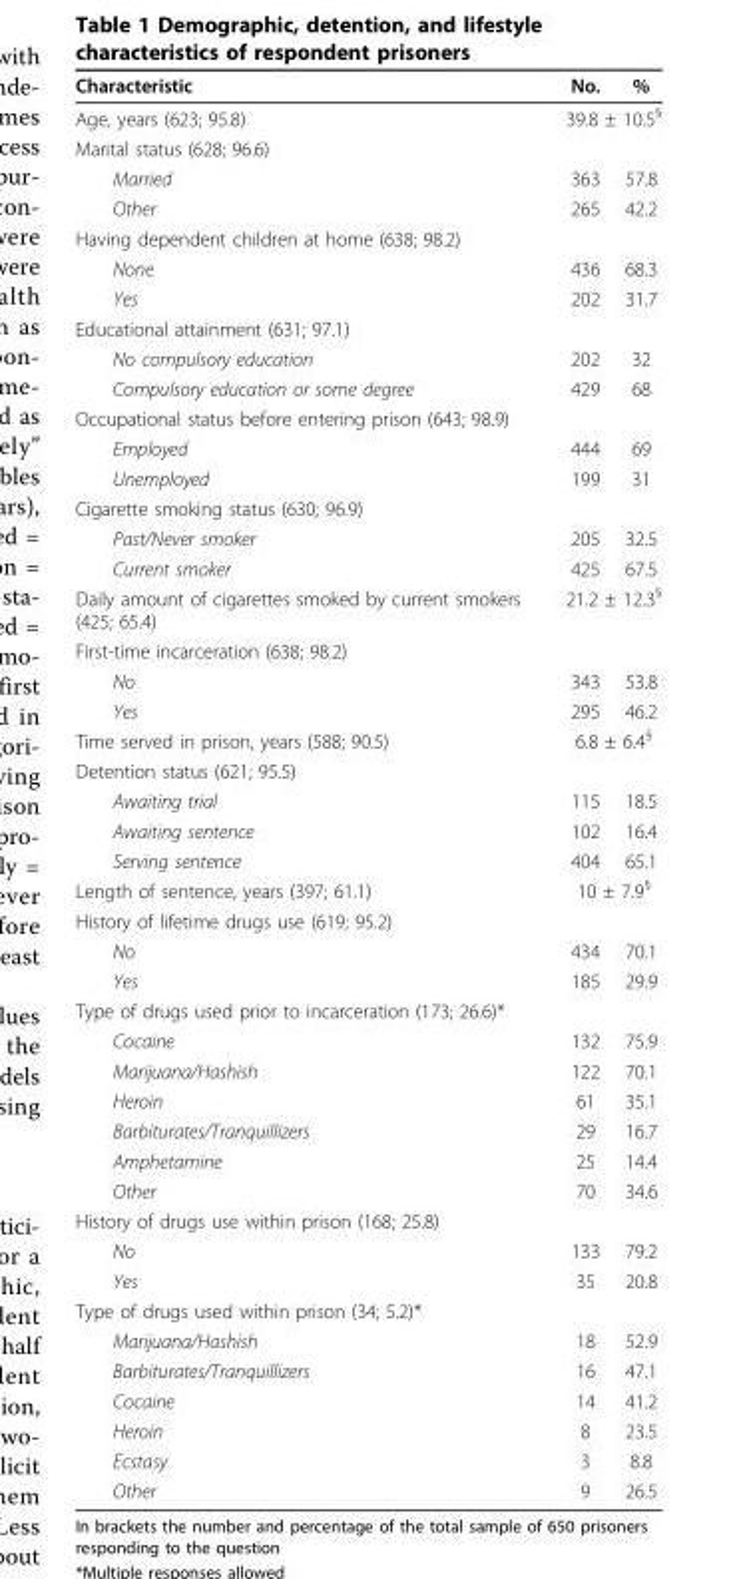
<table><thead><tr><td>Characteristic</td><td>No.</td><td>%</td></tr></thead><tbody><tr><td>Age, years (623; 95.8)</td><td colspan="2">39.8 ± 10.5<sup>§</sup></td></tr><tr><td colspan="3">Marital status (628; 96.6)</td></tr><tr><td>Married</td><td>363</td><td>57.8</td></tr><tr><td>Other</td><td>265</td><td>42.2</td></tr><tr><td colspan="3">Having dependent children at home (638; 98.2)</td></tr><tr><td>None</td><td>436</td><td>68.3</td></tr><tr><td>Yes</td><td>202</td><td>31.7</td></tr><tr><td colspan="3">Educational attainment (631; 97.1)</td></tr><tr><td>No compulsory education</td><td>202</td><td>32</td></tr><tr><td>Compulsory education or some degree</td><td>429</td><td>68</td></tr><tr><td colspan="3">Occupational status before entering prison (643; 98.9)</td></tr><tr><td>Employed</td><td>444</td><td>69</td></tr><tr><td>Unemployed</td><td>199</td><td>31</td></tr><tr><td colspan="3">Cigarette smoking status (630; 96.9)</td></tr><tr><td>Past/Never smoker</td><td>205</td><td>32.5</td></tr><tr><td>Current smoker</td><td>425</td><td>67.5</td></tr><tr><td>Daily amount of cigarettes smoked by current smokers (425; 65.4)</td><td colspan="2">21.2 ± 12.3<sup>§</sup></td></tr><tr><td colspan="3">First-time incarceration (638; 98.2)</td></tr><tr><td>No</td><td>343</td><td>53.8</td></tr><tr><td>Yes</td><td>295</td><td>46.2</td></tr><tr><td>Time served in prison, years (588; 90.5)</td><td colspan="2">6.8 ± 6.4<sup>§</sup></td></tr><tr><td colspan="3">Detention status (621; 95.5)</td></tr><tr><td>Awaiting trial</td><td>115</td><td>18.5</td></tr><tr><td>Awaiting sentence</td><td>102</td><td>16.4</td></tr><tr><td>Serving sentence</td><td>404</td><td>65.1</td></tr><tr><td>Length of sentence, years (397; 61.1)</td><td colspan="2">10 ± 7.9<sup>§</sup></td></tr><tr><td colspan="3">History of lifetime drugs use (619; 95.2)</td></tr><tr><td>No</td><td>434</td><td>70.1</td></tr><tr><td>Yes</td><td>185</td><td>29.9</td></tr><tr><td colspan="3">Type of drugs used prior to incarceration (173; 26.6)*</td></tr><tr><td>Cocaine</td><td>132</td><td>75.9</td></tr><tr><td>Marijuana/Hashish</td><td>122</td><td>70.1</td></tr><tr><td>Heroin</td><td>61</td><td>35.1</td></tr><tr><td>Barbiturates/Tranquillizers</td><td>29</td><td>16.7</td></tr><tr><td>Amphetamine</td><td>25</td><td>14.4</td></tr><tr><td>Other</td><td>70</td><td>34.6</td></tr><tr><td colspan="3">History of drugs use within prison (168; 25.8)</td></tr><tr><td>No</td><td>133</td><td>79.2</td></tr><tr><td>Yes</td><td>35</td><td>20.8</td></tr><tr><td colspan="3">Type of drugs used within prison (34; 5.2)*</td></tr><tr><td>Marijuana/Hashish</td><td>18</td><td>52.9</td></tr><tr><td>Barbiturates/Tranquillizers</td><td>16</td><td>47.1</td></tr><tr><td>Cocaine</td><td>14</td><td>41.2</td></tr><tr><td>Heroin</td><td>8</td><td>23.5</td></tr><tr><td>Ecstasy</td><td>3</td><td>8.8</td></tr><tr><td>Other</td><td>9</td><td>26.5</td></tr></tbody></table>